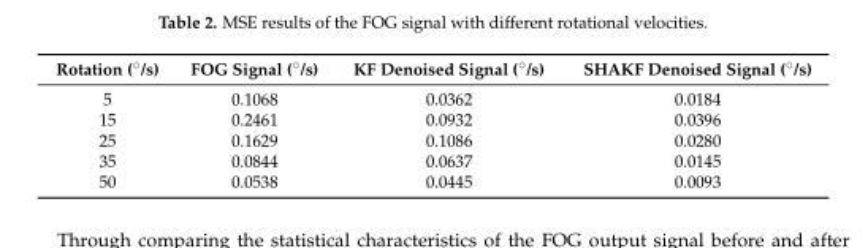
<table><thead><tr><td>Rotation (˝/s)</td><td>FOG Signal (˝/s)</td><td>KF Denoised Signal (˝/s)</td><td>SHAKF Denoised Signal (˝/s)</td></tr></thead><tbody><tr><td>5</td><td>0.1068</td><td>0.0362</td><td>0.0184</td></tr><tr><td>15</td><td>0.2461</td><td>0.0932</td><td>0.0396</td></tr><tr><td>25</td><td>0.1629</td><td>0.1086</td><td>0.0280</td></tr><tr><td>35</td><td>0.0844</td><td>0.0637</td><td>0.0145</td></tr><tr><td>50</td><td>0.0538</td><td>0.0445</td><td>0.0093</td></tr></tbody></table>